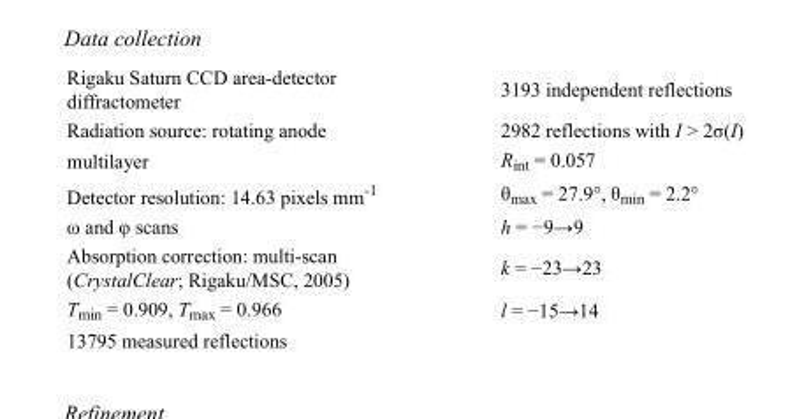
<table><tbody><tr><td>Rigaku Saturn CCD area-detector diffractometer</td><td>3193 independent reflections</td></tr><tr><td>Radiation source: rotating anode</td><td>2982 reflections with I &gt; 2σ(I)</td></tr><tr><td>multilayer</td><td>R<sub>int</sub> = 0.057</td></tr><tr><td>Detector resolution: 14.63 pixels mm<sup>-1</sup></td><td>θ<sub>max</sub> = 27.9°, θ<sub>min</sub> = 2.2°</td></tr><tr><td>ω and φ scans</td><td>h = −9→9</td></tr><tr><td>Absorption correction: multi-scan (CrystalClear; Rigaku/MSC, 2005)</td><td>k = −23→23</td></tr><tr><td>T<sub>min</sub> = 0.909, T<sub>max</sub> = 0.966</td><td>l = −15→14</td></tr><tr><td>13795 measured reflections</td><td></td></tr></tbody></table>